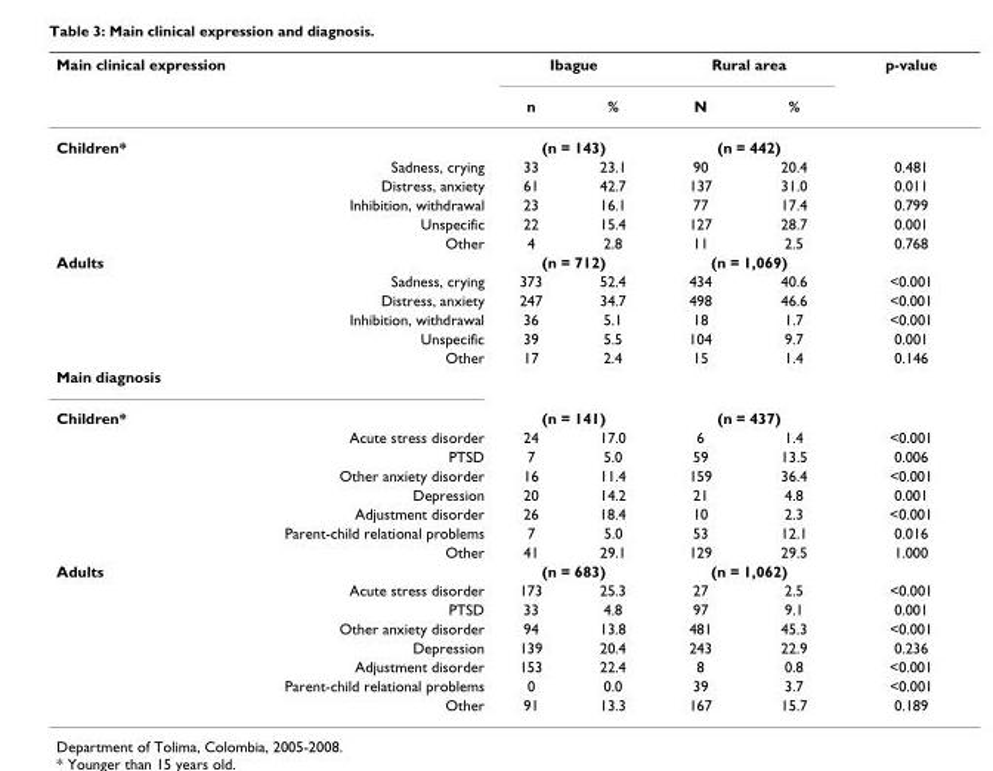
<table><thead><tr><td rowspan="2">Main clinical expression</td><td colspan="2">Ibague</td><td colspan="2">Rural area</td><td rowspan="2">p-value</td></tr><tr><td>n</td><td>%</td><td>N</td><td>%</td></tr></thead><tbody><tr><td>Children*</td><td colspan="2">(n = 143)</td><td colspan="2">(n = 442)</td><td></td></tr><tr><td>Sadness, crying</td><td>33</td><td>23.1</td><td>90</td><td>20.4</td><td>0.481</td></tr><tr><td>Distress, anxiety</td><td>61</td><td>42.7</td><td>137</td><td>31.0</td><td>0.011</td></tr><tr><td>Inhibition, withdrawal</td><td>23</td><td>16.1</td><td>77</td><td>17.4</td><td>0.799</td></tr><tr><td>Unspecific</td><td>22</td><td>15.4</td><td>127</td><td>28.7</td><td>0.001</td></tr><tr><td>Other</td><td>4</td><td>2.8</td><td>11</td><td>2.5</td><td>0.768</td></tr><tr><td>Adults</td><td colspan="2">(n = 712)</td><td colspan="2">(n = 1,069)</td><td></td></tr><tr><td>Sadness, crying</td><td>373</td><td>52.4</td><td>434</td><td>40.6</td><td>&lt;0.001</td></tr><tr><td>Distress, anxiety</td><td>247</td><td>34.7</td><td>498</td><td>46.6</td><td>&lt;0.001</td></tr><tr><td>Inhibition, withdrawal</td><td>36</td><td>5.1</td><td>18</td><td>1.7</td><td>&lt;0.001</td></tr><tr><td>Unspecific</td><td>39</td><td>5.5</td><td>104</td><td>9.7</td><td>0.001</td></tr><tr><td>Other</td><td>17</td><td>2.4</td><td>15</td><td>1.4</td><td>0.146</td></tr><tr><td colspan="6">Main diagnosis</td></tr><tr><td>Children*</td><td colspan="2">(n = 141)</td><td colspan="2">(n = 437)</td><td></td></tr><tr><td>Acute stress disorder</td><td>24</td><td>17.0</td><td>6</td><td>1.4</td><td>&lt;0.001</td></tr><tr><td>PTSD</td><td>7</td><td>5.0</td><td>59</td><td>13.5</td><td>0.006</td></tr><tr><td>Other anxiety disorder</td><td>16</td><td>11.4</td><td>159</td><td>36.4</td><td>&lt;0.001</td></tr><tr><td>Depression</td><td>20</td><td>14.2</td><td>21</td><td>4.8</td><td>0.001</td></tr><tr><td>Adjustment disorder</td><td>26</td><td>18.4</td><td>10</td><td>2.3</td><td>&lt;0.001</td></tr><tr><td>Parent-child relational problems</td><td>7</td><td>5.0</td><td>53</td><td>12.1</td><td>0.016</td></tr><tr><td>Other</td><td>41</td><td>29.1</td><td>129</td><td>29.5</td><td>1.000</td></tr><tr><td>Adults</td><td colspan="2">(n = 683)</td><td colspan="2">(n = 1,062)</td><td></td></tr><tr><td>Acute stress disorder</td><td>173</td><td>25.3</td><td>27</td><td>2.5</td><td>&lt;0.001</td></tr><tr><td>PTSD</td><td>33</td><td>4.8</td><td>97</td><td>9.1</td><td>0.001</td></tr><tr><td>Other anxiety disorder</td><td>94</td><td>13.8</td><td>481</td><td>45.3</td><td>&lt;0.001</td></tr><tr><td>Depression</td><td>139</td><td>20.4</td><td>243</td><td>22.9</td><td>0.236</td></tr><tr><td>Adjustment disorder</td><td>153</td><td>22.4</td><td>8</td><td>0.8</td><td>&lt;0.001</td></tr><tr><td>Parent-child relational problems</td><td>0</td><td>0.0</td><td>39</td><td>3.7</td><td>&lt;0.001</td></tr><tr><td>Other</td><td>91</td><td>13.3</td><td>167</td><td>15.7</td><td>0.189</td></tr></tbody></table>